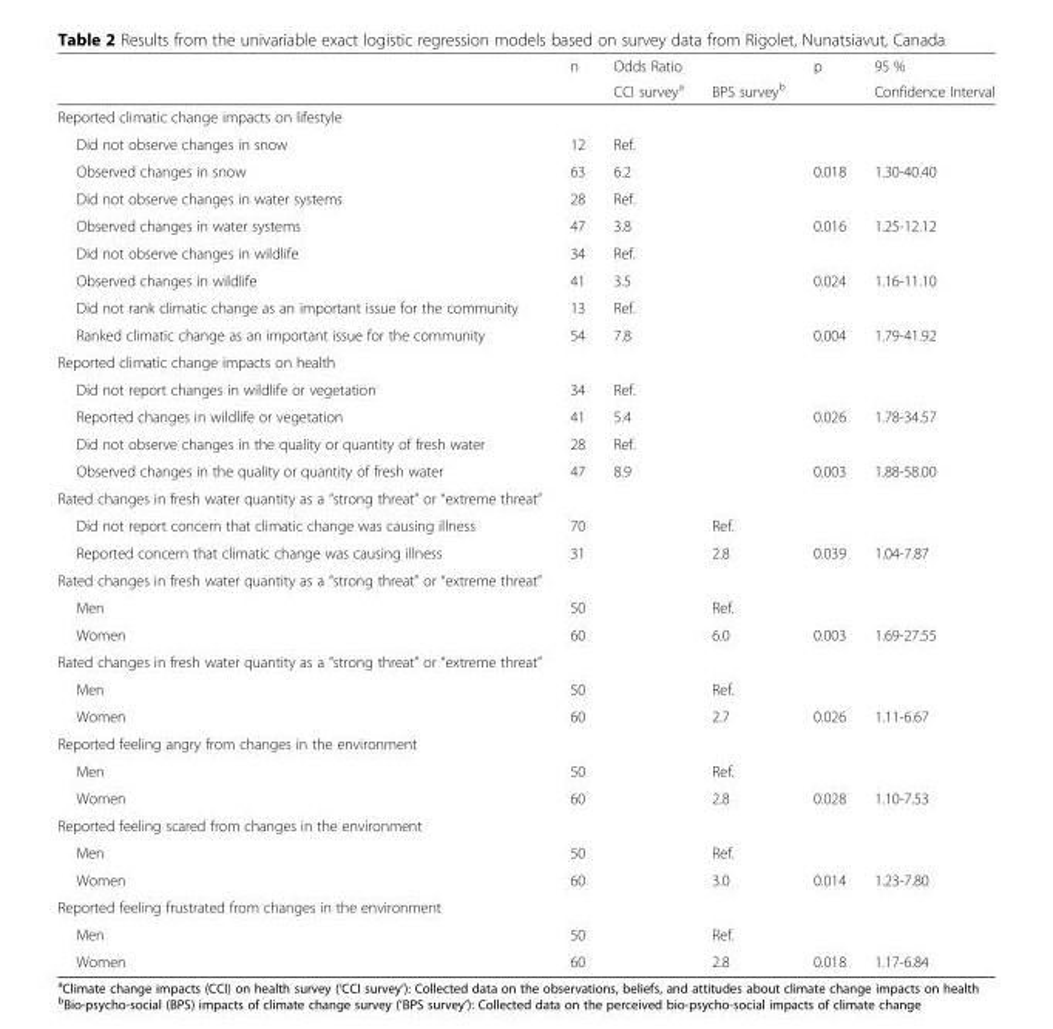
<table><thead><tr><td rowspan="2"></td><td rowspan="2">n</td><td colspan="2">Odds Ratio</td><td rowspan="2">p</td><td rowspan="2">95 % Confidence Interval</td></tr><tr><td>CCI survey<sup>a</sup></td><td>BPS survey<sup>b</sup></td></tr></thead><tbody><tr><td colspan="6">Reported climatic change impacts on lifestyle</td></tr><tr><td>Did not observe changes in snow</td><td>12</td><td>Ref.</td><td></td><td></td><td></td></tr><tr><td>Observed changes in snow</td><td>63</td><td>6.2</td><td></td><td>0.018</td><td>1.30-40.40</td></tr><tr><td>Did not observe changes in water systems</td><td>28</td><td>Ref.</td><td></td><td></td><td></td></tr><tr><td>Observed changes in water systems</td><td>47</td><td>3.8</td><td></td><td>0.016</td><td>1.25-12.12</td></tr><tr><td>Did not observe changes in wildlife</td><td>34</td><td>Ref.</td><td></td><td></td><td></td></tr><tr><td>Observed changes in wildlife</td><td>41</td><td>3.5</td><td></td><td>0.024</td><td>1.16-11.10</td></tr><tr><td>Did not rank climatic change as an important issue for the community</td><td>13</td><td>Ref.</td><td></td><td></td><td></td></tr><tr><td>Ranked climatic change as an important issue for the community</td><td>54</td><td>7.8</td><td></td><td>0.004</td><td>1.79-41.92</td></tr><tr><td colspan="6">Reported climatic change impacts on health</td></tr><tr><td>Did not report changes in wildlife or vegetation</td><td>34</td><td>Ref.</td><td></td><td></td><td></td></tr><tr><td>Reported changes in wildlife or vegetation</td><td>41</td><td>5.4</td><td></td><td>0.026</td><td>1.78-34.57</td></tr><tr><td>Did not observe changes in the quality or quantity of fresh water</td><td>28</td><td>Ref.</td><td></td><td></td><td></td></tr><tr><td>Observed changes in the quality or quantity of fresh water</td><td>47</td><td>8.9</td><td></td><td>0.003</td><td>1.88-58.00</td></tr><tr><td colspan="6">Rated changes in fresh water quantity as a “strong threat” or “extreme threat”</td></tr><tr><td>Did not report concern that climatic change was causing illness</td><td>70</td><td></td><td>Ref.</td><td></td><td></td></tr><tr><td>Reported concern that climatic change was causing illness</td><td>31</td><td></td><td>2.8</td><td>0.039</td><td>1.04-7.87</td></tr><tr><td colspan="6">Rated changes in fresh water quantity as a “strong threat” or “extreme threat”</td></tr><tr><td>Men</td><td>50</td><td></td><td>Ref.</td><td></td><td></td></tr><tr><td>Women</td><td>60</td><td></td><td>6.0</td><td>0.003</td><td>1.69-27.55</td></tr><tr><td colspan="6">Rated changes in fresh water quantity as a “strong threat” or “extreme threat”</td></tr><tr><td>Men</td><td>50</td><td></td><td>Ref.</td><td></td><td></td></tr><tr><td>Women</td><td>60</td><td></td><td>2.7</td><td>0.026</td><td>1.11-6.67</td></tr><tr><td colspan="6">Reported feeling angry from changes in the environment</td></tr><tr><td>Men</td><td>50</td><td></td><td>Ref.</td><td></td><td></td></tr><tr><td>Women</td><td>60</td><td></td><td>2.8</td><td>0.028</td><td>1.10-7.53</td></tr><tr><td colspan="6">Reported feeling scared from changes in the environment</td></tr><tr><td>Men</td><td>50</td><td></td><td>Ref.</td><td></td><td></td></tr><tr><td>Women</td><td>60</td><td></td><td>3.0</td><td>0.014</td><td>1.23-7.80</td></tr><tr><td colspan="6">Reported feeling frustrated from changes in the environment</td></tr><tr><td>Men</td><td>50</td><td></td><td>Ref.</td><td></td><td></td></tr><tr><td>Women</td><td>60</td><td></td><td>2.8</td><td>0.018</td><td>1.17-6.84</td></tr></tbody></table>